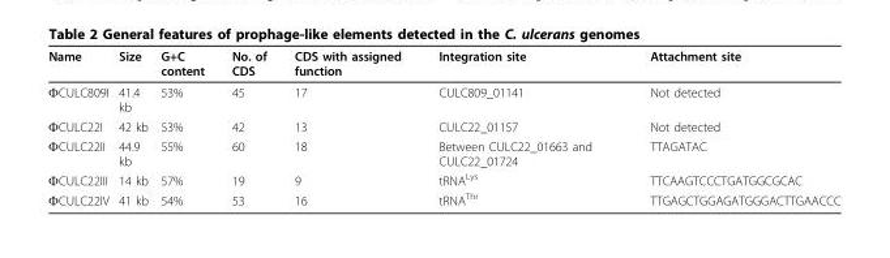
<table><thead><tr><td>Name</td><td>Size</td><td>G+C content</td><td>No. of CDS</td><td>CDS with assigned function</td><td>Integration site</td><td>Attachment site</td></tr></thead><tbody><tr><td>ΦCULC809I</td><td>41.4 kb</td><td>53%</td><td>45</td><td>17</td><td>CULC809_01141</td><td>Not detected</td></tr><tr><td>ΦCULC22I</td><td>42 kb</td><td>53%</td><td>42</td><td>13</td><td>CULC22_01157</td><td>Not detected</td></tr><tr><td>ΦCULC22II</td><td>44.9 kb</td><td>55%</td><td>60</td><td>18</td><td>Between CULC22_01663 and CULC22_01724</td><td>TTAGATAC</td></tr><tr><td>ΦCULC22III</td><td>14 kb</td><td>57%</td><td>19</td><td>9</td><td>tRNA<sup>Lys</sup></td><td>TTCAAGTCCCTGATGGCGCAC</td></tr><tr><td>ΦCULC22IV</td><td>41 kb</td><td>54%</td><td>53</td><td>16</td><td>tRNA<sup>Thr</sup></td><td>TTGAGCTGGAGATGGGACTTGAACCC</td></tr></tbody></table>